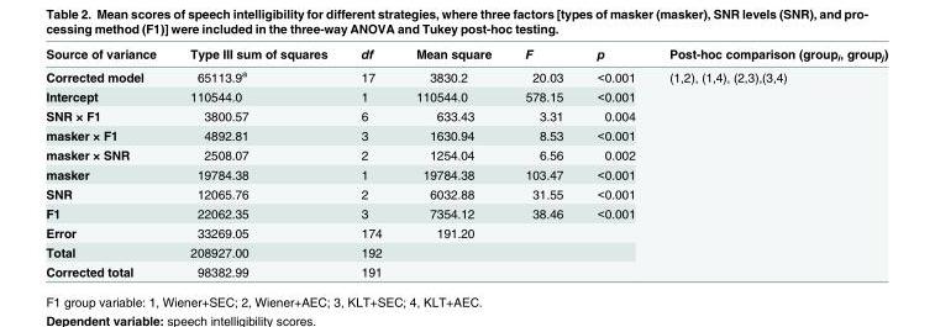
<table><thead><tr><td>Source of variance</td><td>Type III sum of squares</td><td>df</td><td>Mean square</td><td>F</td><td>p</td><td>Post-hoc comparison (group<sub>i</sub>, group<sub>j</sub>)</td></tr></thead><tbody><tr><td>Corrected model</td><td>65113.9<sup>a</sup></td><td>17</td><td>3830.2</td><td>20.03</td><td>&lt;0.001</td><td rowspan="11">(1,2), (1,4), (2,3),(3,4)</td></tr><tr><td>Intercept</td><td>110544.0</td><td>1</td><td>110544.0</td><td>578.15</td><td>&lt;0.001</td></tr><tr><td>SNR × F1</td><td>3800.57</td><td>6</td><td>633.43</td><td>3.31</td><td>0.004</td></tr><tr><td>masker × F1</td><td>4892.81</td><td>3</td><td>1630.94</td><td>8.53</td><td>&lt;0.001</td></tr><tr><td>masker × SNR</td><td>2508.07</td><td>2</td><td>1254.04</td><td>6.56</td><td>0.002</td></tr><tr><td>masker</td><td>19784.38</td><td>1</td><td>19784.38</td><td>103.47</td><td>&lt;0.001</td></tr><tr><td>SNR</td><td>12065.76</td><td>2</td><td>6032.88</td><td>31.55</td><td>&lt;0.001</td></tr><tr><td>F1</td><td>22062.35</td><td>3</td><td>7354.12</td><td>38.46</td><td>&lt;0.001</td></tr><tr><td>Error</td><td>33269.05</td><td>174</td><td>191.20</td><td></td><td></td></tr><tr><td>Total</td><td>208927.00</td><td>192</td><td></td><td></td><td></td></tr><tr><td>Corrected total</td><td>98382.99</td><td>191</td><td></td><td></td><td></td></tr></tbody></table>